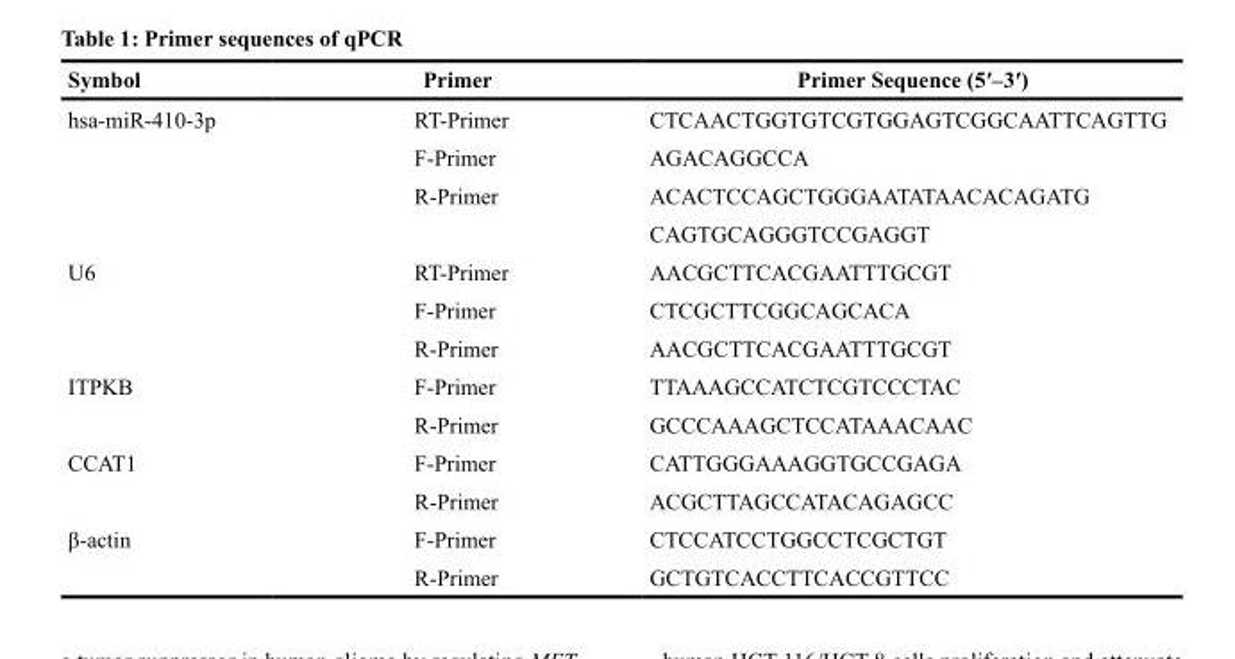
<table><thead><tr><td>Symbol</td><td>Primer</td><td>Primer Sequence (5′–3′)</td></tr></thead><tbody><tr><td rowspan="4">hsa-miR-410-3p</td><td>RT-Primer</td><td>CTCAACTGGTGTCGTGGAGTCGGCAATTCAGTTG</td></tr><tr><td>F-Primer</td><td>AGACAGGCCA</td></tr><tr><td>R-Primer</td><td>ACACTCCAGCTGGGAATATAACACAGATG</td></tr><tr><td></td><td>CAGTGCAGGGTCCGAGGT</td></tr><tr><td rowspan="3">U6</td><td>RT-Primer</td><td>AACGCTTCACGAATTTGCGT</td></tr><tr><td>F-Primer</td><td>CTCGCTTCGGCAGCACA</td></tr><tr><td>R-Primer</td><td>AACGCTTCACGAATTTGCGT</td></tr><tr><td rowspan="2">ITPKB</td><td>F-Primer</td><td>TTAAAGCCATCTCGTCCCTAC</td></tr><tr><td>R-Primer</td><td>GCCCAAAGCTCCATAAACAAC</td></tr><tr><td rowspan="2">CCAT1</td><td>F-Primer</td><td>CATTGGGAAAGGTGCCGAGA</td></tr><tr><td>R-Primer</td><td>ACGCTTAGCCATACAGAGCC</td></tr><tr><td rowspan="2">β-actin</td><td>F-Primer</td><td>CTCCATCCTGGCCTCGCTGT</td></tr><tr><td>R-Primer</td><td>GCTGTCACCTTCACCGTTCC</td></tr></tbody></table>